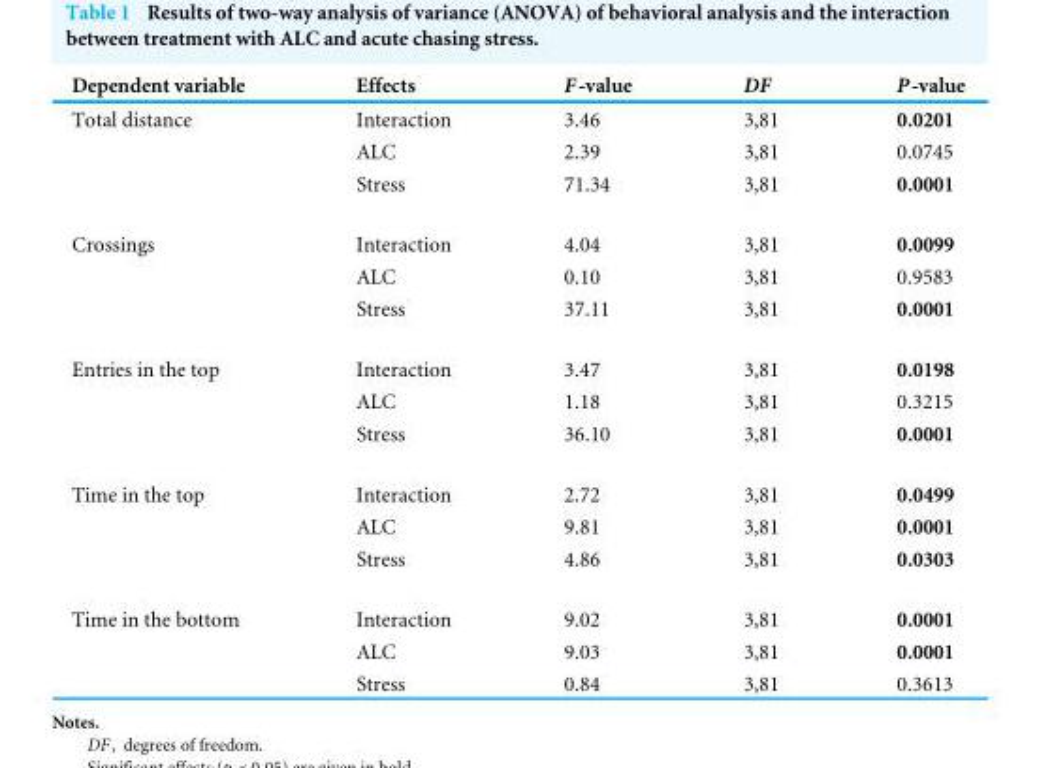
<table><thead><tr><td>Dependent variable</td><td>Effects</td><td>F-value</td><td>DF</td><td>P-value</td></tr></thead><tbody><tr><td rowspan="3">Total distance</td><td>Interaction</td><td>3.46</td><td>3,81</td><td>0.0201</td></tr><tr><td>ALC</td><td>2.39</td><td>3,81</td><td>0.0745</td></tr><tr><td>Stress</td><td>71.34</td><td>3,81</td><td>0.0001</td></tr><tr><td rowspan="3">Crossings</td><td>Interaction</td><td>4.04</td><td>3,81</td><td>0.0099</td></tr><tr><td>ALC</td><td>0.10</td><td>3,81</td><td>0.9583</td></tr><tr><td>Stress</td><td>37.11</td><td>3,81</td><td>0.0001</td></tr><tr><td rowspan="3">Entries in the top</td><td>Interaction</td><td>3.47</td><td>3,81</td><td>0.0198</td></tr><tr><td>ALC</td><td>1.18</td><td>3,81</td><td>0.3215</td></tr><tr><td>Stress</td><td>36.10</td><td>3,81</td><td>0.0001</td></tr><tr><td rowspan="3">Time in the top</td><td>Interaction</td><td>2.72</td><td>3,81</td><td>0.0499</td></tr><tr><td>ALC</td><td>9.81</td><td>3,81</td><td>0.0001</td></tr><tr><td>Stress</td><td>4.86</td><td>3,81</td><td>0.0303</td></tr><tr><td rowspan="3">Time in the bottom</td><td>Interaction</td><td>9.02</td><td>3,81</td><td>0.0001</td></tr><tr><td>ALC</td><td>9.03</td><td>3,81</td><td>0.0001</td></tr><tr><td>Stress</td><td>0.84</td><td>3,81</td><td>0.3613</td></tr></tbody></table>